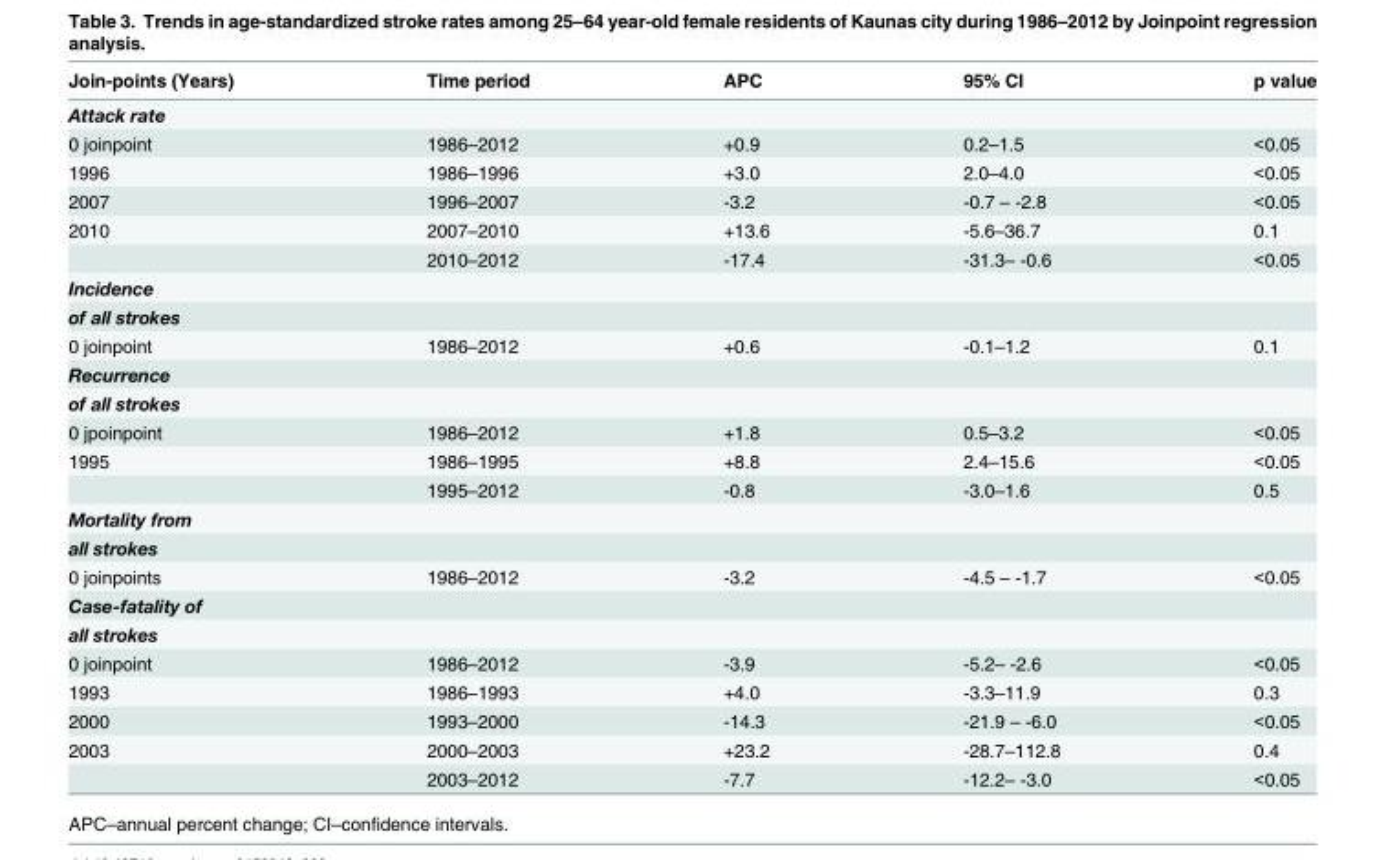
<table><thead><tr><td>Join-points (Years)</td><td>Time period</td><td>APC</td><td>95% CI</td><td>p value</td></tr></thead><tbody><tr><td colspan="5">Attack rate</td></tr><tr><td>0 joinpoint</td><td>1986–2012</td><td>+0.9</td><td>0.2–1.5</td><td>&lt;0.05</td></tr><tr><td>1996</td><td>1986–1996</td><td>+3.0</td><td>2.0–4.0</td><td>&lt;0.05</td></tr><tr><td>2007</td><td>1996–2007</td><td>-3.2</td><td>-0.7 – -2.8</td><td>&lt;0.05</td></tr><tr><td rowspan="2">2010</td><td>2007–2010</td><td>+13.6</td><td>-5.6–36.7</td><td>0.1</td></tr><tr><td>2010–2012</td><td>-17.4</td><td>-31.3– -0.6</td><td>&lt;0.05</td></tr><tr><td colspan="5">Incidence</td></tr><tr><td colspan="5">of all strokes</td></tr><tr><td>0 joinpoint</td><td>1986–2012</td><td>+0.6</td><td>-0.1–1.2</td><td>0.1</td></tr><tr><td colspan="5">Recurrence</td></tr><tr><td colspan="5">of all strokes</td></tr><tr><td>0 jpoinpoint</td><td>1986–2012</td><td>+1.8</td><td>0.5–3.2</td><td>&lt;0.05</td></tr><tr><td rowspan="2">1995</td><td>1986–1995</td><td>+8.8</td><td>2.4–15.6</td><td>&lt;0.05</td></tr><tr><td>1995–2012</td><td>-0.8</td><td>-3.0–1.6</td><td>0.5</td></tr><tr><td colspan="5">Mortality from</td></tr><tr><td colspan="5">all strokes</td></tr><tr><td>0 joinpoints</td><td>1986–2012</td><td>-3.2</td><td>-4.5 – -1.7</td><td>&lt;0.05</td></tr><tr><td colspan="5">Case-fatality of</td></tr><tr><td colspan="5">all strokes</td></tr><tr><td>0 joinpoint</td><td>1986–2012</td><td>-3.9</td><td>-5.2– -2.6</td><td>&lt;0.05</td></tr><tr><td>1993</td><td>1986–1993</td><td>+4.0</td><td>-3.3–11.9</td><td>0.3</td></tr><tr><td>2000</td><td>1993–2000</td><td>-14.3</td><td>-21.9 – -6.0</td><td>&lt;0.05</td></tr><tr><td rowspan="2">2003</td><td>2000–2003</td><td>+23.2</td><td>-28.7–112.8</td><td>0.4</td></tr><tr><td>2003–2012</td><td>-7.7</td><td>-12.2– -3.0</td><td>&lt;0.05</td></tr></tbody></table>